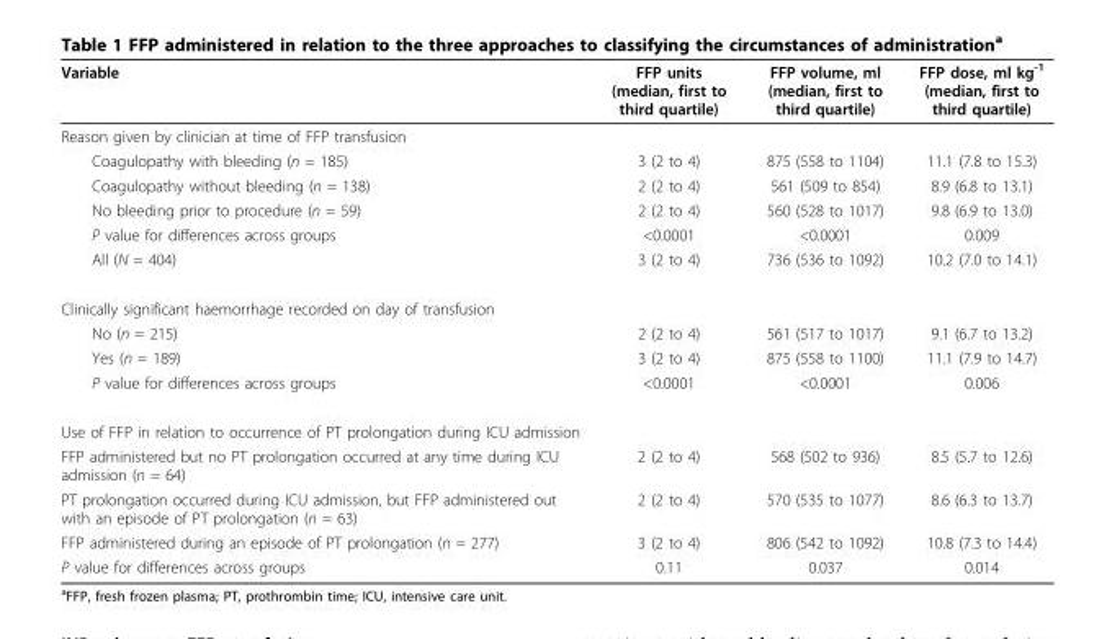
<table><thead><tr><td>Variable</td><td>FFP units (median, first to third quartile)</td><td>FFP volume, ml (median, first to third quartile)</td><td>FFP dose, ml kg<sup>-1</sup> (median, first to third quartile)</td></tr></thead><tbody><tr><td colspan="4">Reason given by clinician at time of FFP transfusion</td></tr><tr><td>Coagulopathy with bleeding (n = 185)</td><td>3 (2 to 4)</td><td>875 (558 to 1104)</td><td>11.1 (7.8 to 15.3)</td></tr><tr><td>Coagulopathy without bleeding (n = 138)</td><td>2 (2 to 4)</td><td>561 (509 to 854)</td><td>8.9 (6.8 to 13.1)</td></tr><tr><td>No bleeding prior to procedure (n = 59)</td><td>2 (2 to 4)</td><td>560 (528 to 1017)</td><td>9.8 (6.9 to 13.0)</td></tr><tr><td>P value for differences across groups</td><td>&lt;0.0001</td><td>&lt;0.0001</td><td>0.009</td></tr><tr><td>All (N = 404)</td><td>3 (2 to 4)</td><td>736 (536 to 1092)</td><td>10.2 (7.0 to 14.1)</td></tr><tr><td colspan="4">Clinically significant haemorrhage recorded on day of transfusion</td></tr><tr><td>No (n = 215)</td><td>2 (2 to 4)</td><td>561 (517 to 1017)</td><td>9.1 (6.7 to 13.2)</td></tr><tr><td>Yes (n = 189)</td><td>3 (2 to 4)</td><td>875 (558 to 1100)</td><td>11.1 (7.9 to 14.7)</td></tr><tr><td>P value for differences across groups</td><td>&lt;0.0001</td><td>&lt;0.0001</td><td>0.006</td></tr><tr><td colspan="4">Use of FFP in relation to occurrence of PT prolongation during ICU admission</td></tr><tr><td>FFP administered but no PT prolongation occurred at any time during ICU admission (n = 64)</td><td>2 (2 to 4)</td><td>568 (502 to 936)</td><td>8.5 (5.7 to 12.6)</td></tr><tr><td>PT prolongation occurred during ICU admission, but FFP administered out with an episode of PT prolongation (n = 63)</td><td>2 (2 to 4)</td><td>570 (535 to 1077)</td><td>8.6 (6.3 to 13.7)</td></tr><tr><td>FFP administered during an episode of PT prolongation (n = 277)</td><td>3 (2 to 4)</td><td>806 (542 to 1092)</td><td>10.8 (7.3 to 14.4)</td></tr><tr><td>P value for differences across groups</td><td>0.11</td><td>0.037</td><td>0.014</td></tr></tbody></table>